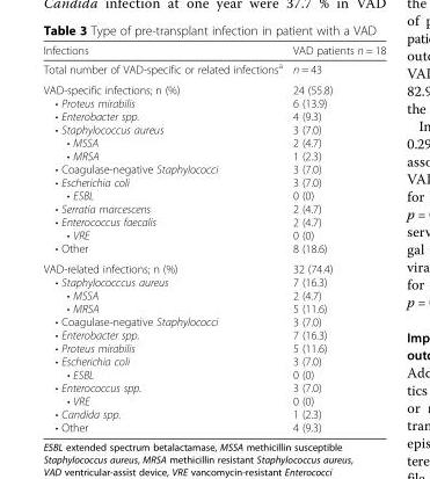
<table><thead><tr><td>Infections</td><td>VAD patients n = 18</td></tr></thead><tbody><tr><td>Total number of VAD-specific or related infections<sup>a</sup></td><td>n = 43</td></tr><tr><td>VAD-specific infections; n (%) • Proteus mirabilis • Enterobacter spp. • Staphylococcus aureus • MSSA • MRSA • Coagulase-negative Staphylococci • Escherichia coli • ESBL • Serratia marcescens • Enterococcus faecalis • VRE • Other</td><td>24 (55.8) 6 (13.9) 4 (9.3) 3 (7.0) 2 (4.7) 1 (2.3) 3 (7.0) 3 (7.0) 0 (0) 2 (4.7) 2 (4.7) 0 (0) 8 (18.6)</td></tr><tr><td>VAD-related infections; n (%) • Staphylococccus aureus • MSSA • MRSA • Coagulase-negative Staphylococci • Enterobacter spp. • Proteus mirabilis • Escherichia coli • ESBL • Enterococcus spp. • VRE • Candida spp. • Other</td><td>32 (74.4) 7 (16.3) 2 (4.7) 5 (11.6) 3 (7.0) 7 (16.3) 5 (11.6) 3 (7.0) 0 (0) 3 (7.0) 0 (0) 1 (2.3) 4 (9.3)</td></tr></tbody></table>